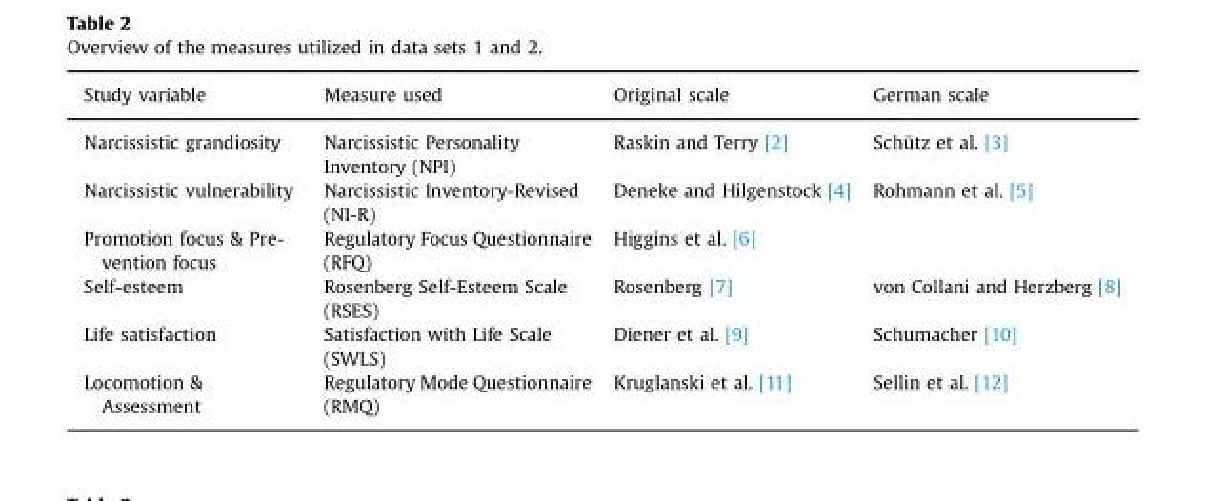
<table><thead><tr><td>Study variable</td><td>Measure used</td><td>Original scale</td><td>German scale</td></tr></thead><tbody><tr><td>Narcissistic grandiosity</td><td>Narcissistic Personality Inventory (NPI)</td><td>Raskin and Terry [2]</td><td>Schütz et al. [3]</td></tr><tr><td>Narcissistic vulnerability</td><td>Narcissistic Inventory-Revised (NI-R)</td><td>Deneke and Hilgenstock [4]</td><td>Rohmann et al. [5]</td></tr><tr><td>Promotion focus &amp; Pre- vention focus</td><td>Regulatory Focus Questionnaire (RFQ)</td><td>Higgins et al. [6]</td><td></td></tr><tr><td>Self-esteem</td><td>Rosenberg Self-Esteem Scale (RSES)</td><td>Rosenberg [7]</td><td>von Collani and Herzberg [8]</td></tr><tr><td>Life satisfaction</td><td>Satisfaction with Life Scale (SWLS)</td><td>Diener et al. [9]</td><td>Schumacher [10]</td></tr><tr><td>Locomotion &amp; Assessment</td><td>Regulatory Mode Questionnaire (RMQ)</td><td>Kruglanski et al. [11]</td><td>Sellin et al. [12]</td></tr></tbody></table>